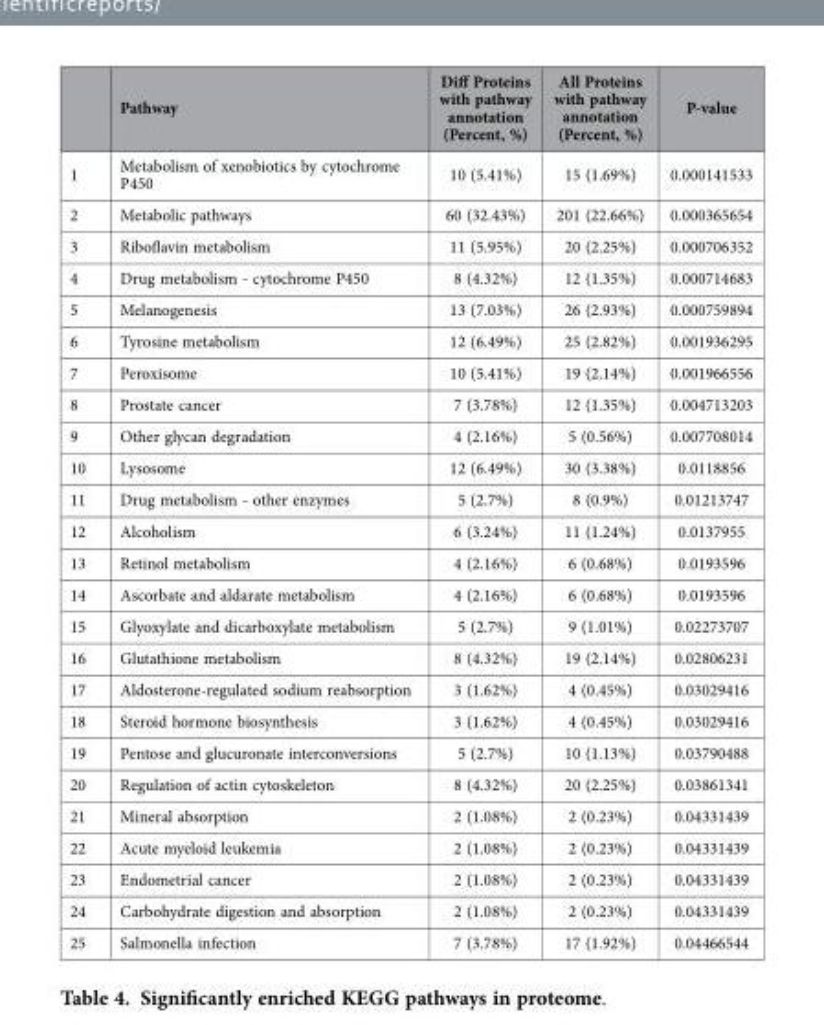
<table><thead><tr><td></td><td>Pathway</td><td>Diff Proteins with pathway annotation (Percent, %)</td><td>All Proteins with pathway annotation (Percent, %)</td><td>P-value</td></tr></thead><tbody><tr><td>1</td><td>Metabolism of xenobiotics by cytochrome P450</td><td>10 (5.41%)</td><td>15 (1.69%)</td><td>0.000141533</td></tr><tr><td>2</td><td>Metabolic pathways</td><td>60 (32.43%)</td><td>201 (22.66%)</td><td>0.000365654</td></tr><tr><td>3</td><td>Riboflavin metabolism</td><td>11 (5.95%)</td><td>20 (2.25%)</td><td>0.000706352</td></tr><tr><td>4</td><td>Drug metabolism - cytochrome P450</td><td>8 (4.32%)</td><td>12 (1.35%)</td><td>0.000714683</td></tr><tr><td>5</td><td>Melanogenesis</td><td>13 (7.03%)</td><td>26 (2.93%)</td><td>0.000759894</td></tr><tr><td>6</td><td>Tyrosine metabolism</td><td>12 (6.49%)</td><td>25 (2.82%)</td><td>0.001936295</td></tr><tr><td>7</td><td>Peroxisome</td><td>10 (5.41%)</td><td>19 (2.14%)</td><td>0.001966556</td></tr><tr><td>8</td><td>Prostate cancer</td><td>7 (3.78%)</td><td>12 (1.35%)</td><td>0.004713203</td></tr><tr><td>9</td><td>Other glycan degradation</td><td>4 (2.16%)</td><td>5 (0.56%)</td><td>0.007708014</td></tr><tr><td>10</td><td>Lysosome</td><td>12 (6.49%)</td><td>30 (3.38%)</td><td>0.0118856</td></tr><tr><td>11</td><td>Drug metabolism - other enzymes</td><td>5 (2.7%)</td><td>8 (0.9%)</td><td>0.01213747</td></tr><tr><td>12</td><td>Alcoholism</td><td>6 (3.24%)</td><td>11 (1.24%)</td><td>0.0137955</td></tr><tr><td>13</td><td>Retinol metabolism</td><td>4 (2.16%)</td><td>6 (0.68%)</td><td>0.0193596</td></tr><tr><td>14</td><td>Ascorbate and aldarate metabolism</td><td>4 (2.16%)</td><td>6 (0.68%)</td><td>0.0193596</td></tr><tr><td>15</td><td>Glyoxylate and dicarboxylate metabolism</td><td>5 (2.7%)</td><td>9 (1.01%)</td><td>0.02273707</td></tr><tr><td>16</td><td>Glutathione metabolism</td><td>8 (4.32%)</td><td>19 (2.14%)</td><td>0.02806231</td></tr><tr><td>17</td><td>Aldosterone-regulated sodium reabsorption</td><td>3 (1.62%)</td><td>4 (0.45%)</td><td>0.03029416</td></tr><tr><td>18</td><td>Steroid hormone biosynthesis</td><td>3 (1.62%)</td><td>4 (0.45%)</td><td>0.03029416</td></tr><tr><td>19</td><td>Pentose and glucuronate interconversions</td><td>5 (2.7%)</td><td>10 (1.13%)</td><td>0.03790488</td></tr><tr><td>20</td><td>Regulation of actin cytoskeleton</td><td>8 (4.32%)</td><td>20 (2.25%)</td><td>0.03861341</td></tr><tr><td>21</td><td>Mineral absorption</td><td>2 (1.08%)</td><td>2 (0.23%)</td><td>0.04331439</td></tr><tr><td>22</td><td>Acute myeloid leukemia</td><td>2 (1.08%)</td><td>2 (0.23%)</td><td>0.04331439</td></tr><tr><td>23</td><td>Endometrial cancer</td><td>2 (1.08%)</td><td>2 (0.23%)</td><td>0.04331439</td></tr><tr><td>24</td><td>Carbohydrate digestion and absorption</td><td>2 (1.08%)</td><td>2 (0.23%)</td><td>0.04331439</td></tr><tr><td>25</td><td>Salmonella infection</td><td>7 (3.78%)</td><td>17 (1.92%)</td><td>0.04466544</td></tr></tbody></table>